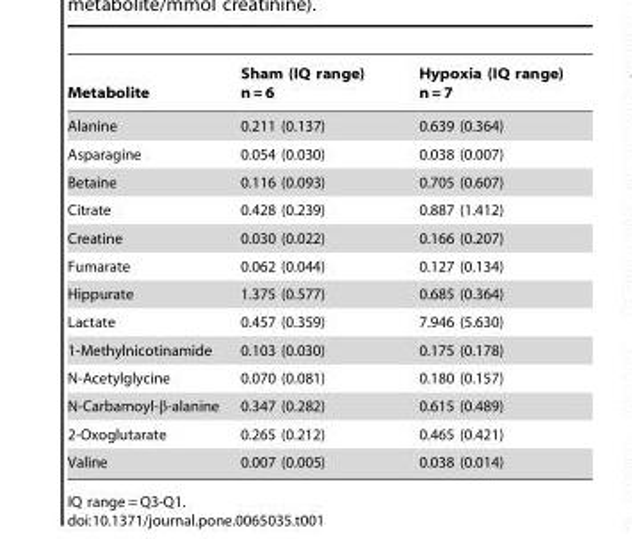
<table><thead><tr><td>Metabolite</td><td>Sham (IQ range) n = 6</td><td>Hypoxia (IQ range) n = 7</td></tr></thead><tbody><tr><td>Alanine</td><td>0.211 (0.137)</td><td>0.639 (0.364)</td></tr><tr><td>Asparagine</td><td>0.054 (0.030)</td><td>0.038 (0.007)</td></tr><tr><td>Betaine</td><td>0.116 (0.093)</td><td>0.705 (0.607)</td></tr><tr><td>Citrate</td><td>0.428 (0.239)</td><td>0.887 (1.412)</td></tr><tr><td>Creatine</td><td>0.030 (0.022)</td><td>0.166 (0.207)</td></tr><tr><td>Fumarate</td><td>0.062 (0.044)</td><td>0.127 (0.134)</td></tr><tr><td>Hippurate</td><td>1.375 (0.577)</td><td>0.685 (0.364)</td></tr><tr><td>Lactate</td><td>0.457 (0.359)</td><td>7.946 (5.630)</td></tr><tr><td>1-Methylnicotinamide</td><td>0.103 (0.030)</td><td>0.175 (0.178)</td></tr><tr><td>N-Acetylglycine</td><td>0.070 (0.081)</td><td>0.180 (0.157)</td></tr><tr><td>N-Carbamoyl-β-alanine</td><td>0.347 (0.282)</td><td>0.615 (0.489)</td></tr><tr><td>2-Oxoglutarate</td><td>0.265 (0.212)</td><td>0.465 (0.421)</td></tr><tr><td>Valine</td><td>0.007 (0.005)</td><td>0.038 (0.014)</td></tr></tbody></table>